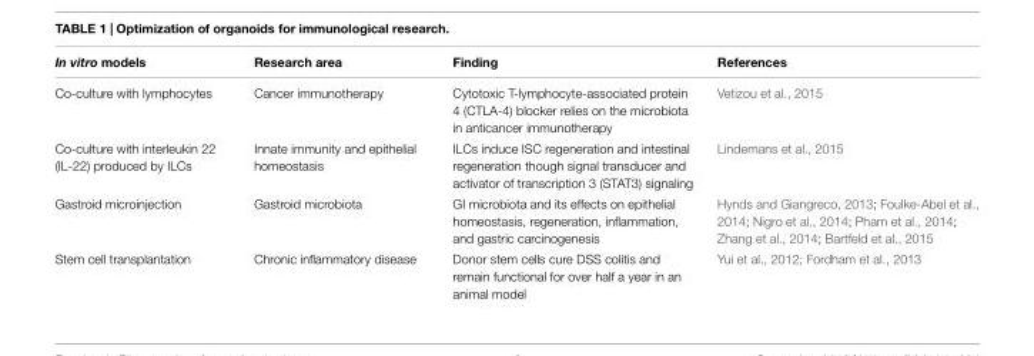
<table><thead><tr><td>In vitro models</td><td>Research area</td><td>Finding</td><td>References</td></tr></thead><tbody><tr><td>Co-culture with lymphocytes</td><td>Cancer immunotherapy</td><td>Cytotoxic T-lymphocyte-associated protein 4 (CTLA-4) blocker relies on the microbiota in anticancer immunotherapy</td><td>Vetizou et al., 2015</td></tr><tr><td>Co-culture with interleukin 22 (IL-22) produced by ILCs</td><td>Innate immunity and epithelial homeostasis</td><td>ILCs induce ISC regeneration and intestinal regeneration though signal transducer and activator of transcription 3 (STAT3) signaling</td><td>Lindemans et al., 2015</td></tr><tr><td>Gastroid microinjection</td><td>Gastroid microbiota</td><td>GI microbiota and its effects on epithelial homeostasis, regeneration, inflammation, and gastric carcinogenesis</td><td>Hynds and Giangreco, 2013; Foulke-Abel et al., 2014; Nigro et al., 2014; Pham et al., 2014; Zhang et al., 2014; Bartfeld et al., 2015</td></tr><tr><td>Stem cell transplantation</td><td>Chronic inflammatory disease</td><td>Donor stem cells cure DSS colitis and remain functional for over half a year in an animal model</td><td>Yui et al., 2012; Fordham et al., 2013</td></tr></tbody></table>